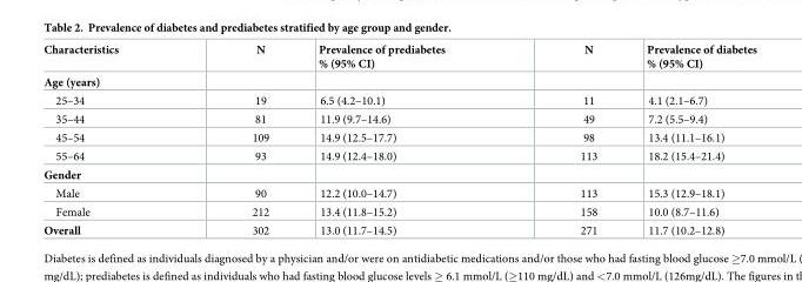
<table><thead><tr><td>Characteristics</td><td>N</td><td>Prevalence of prediabetes % (95% CI)</td><td>N</td><td>Prevalence of diabetes % (95% CI)</td></tr></thead><tbody><tr><td colspan="5">Age (years)</td></tr><tr><td>25–34</td><td>19</td><td>6.5 (4.2–10.1)</td><td>11</td><td>4.1 (2.1–6.7)</td></tr><tr><td>35–44</td><td>81</td><td>11.9 (9.7–14.6)</td><td>49</td><td>7.2 (5.5–9.4)</td></tr><tr><td>45–54</td><td>109</td><td>14.9 (12.5–17.7)</td><td>98</td><td>13.4 (11.1–16.1)</td></tr><tr><td>55–64</td><td>93</td><td>14.9 (12.4–18.0)</td><td>113</td><td>18.2 (15.4–21.4)</td></tr><tr><td colspan="5">Gender</td></tr><tr><td>Male</td><td>90</td><td>12.2 (10.0–14.7)</td><td>113</td><td>15.3 (12.9–18.1)</td></tr><tr><td>Female</td><td>212</td><td>13.4 (11.8–15.2)</td><td>158</td><td>10.0 (8.7–11.6)</td></tr><tr><td>Overall</td><td>302</td><td>13.0 (11.7–14.5)</td><td>271</td><td>11.7 (10.2–12.8)</td></tr></tbody></table>